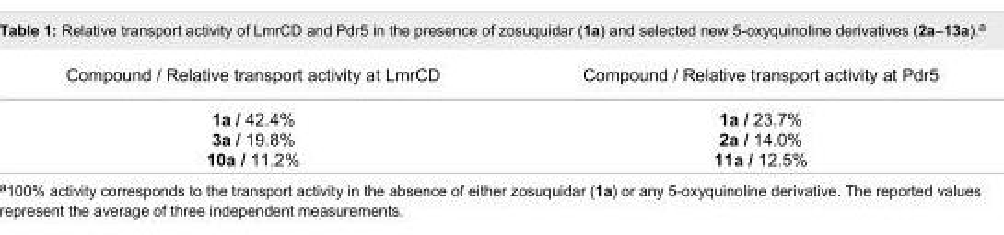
<table><tbody><tr><td>Compound / Relative transport activity at LmrCD</td><td>Compound / Relative transport activity at Pdr5</td></tr><tr><td>1a / 42.4% 3a / 19.8% 10a / 11.2%</td><td>1a / 23.7% 2a / 14.0% 11a / 12.5%</td></tr></tbody></table>